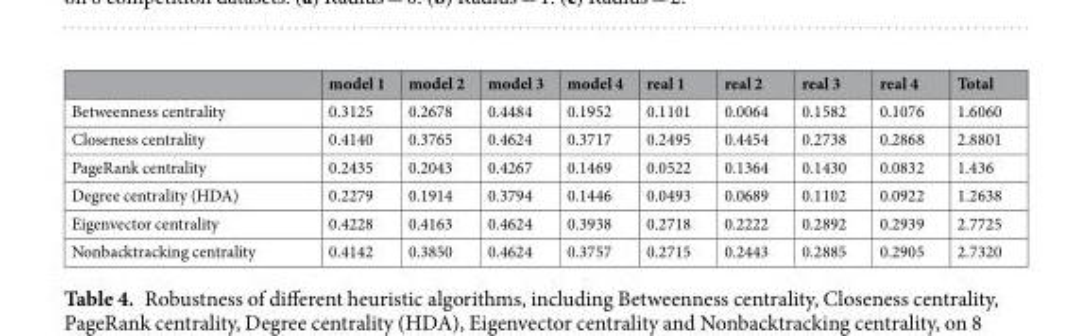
<table><thead><tr><td></td><td>model 1</td><td>model 2</td><td>model 3</td><td>model 4</td><td>real 1</td><td>real 2</td><td>real 3</td><td>real 4</td><td>Total</td></tr></thead><tbody><tr><td>Betweenness centrality</td><td>0.3125</td><td>0.2678</td><td>0.4484</td><td>0.1952</td><td>0.1101</td><td>0.0064</td><td>0.1582</td><td>0.1076</td><td>1.6060</td></tr><tr><td>Closeness centrality</td><td>0.4140</td><td>0.3765</td><td>0.4624</td><td>0.3717</td><td>0.2495</td><td>0.4454</td><td>0.2738</td><td>0.2868</td><td>2.8801</td></tr><tr><td>PageRank centrality</td><td>0.2435</td><td>0.2043</td><td>0.4267</td><td>0.1469</td><td>0.0522</td><td>0.1364</td><td>0.1430</td><td>0.0832</td><td>1.436</td></tr><tr><td>Degree centrality (HDA)</td><td>0.2279</td><td>0.1914</td><td>0.3794</td><td>0.1446</td><td>0.0493</td><td>0.0689</td><td>0.1102</td><td>0.0922</td><td>1.2638</td></tr><tr><td>Eigenvector centrality</td><td>0.4228</td><td>0.4163</td><td>0.4624</td><td>0.3938</td><td>0.2718</td><td>0.2222</td><td>0.2892</td><td>0.2939</td><td>2.7725</td></tr><tr><td>Nonbacktracking centrality</td><td>0.4142</td><td>0.3850</td><td>0.4624</td><td>0.3757</td><td>0.2715</td><td>0.2443</td><td>0.2885</td><td>0.2905</td><td>2.7320</td></tr></tbody></table>